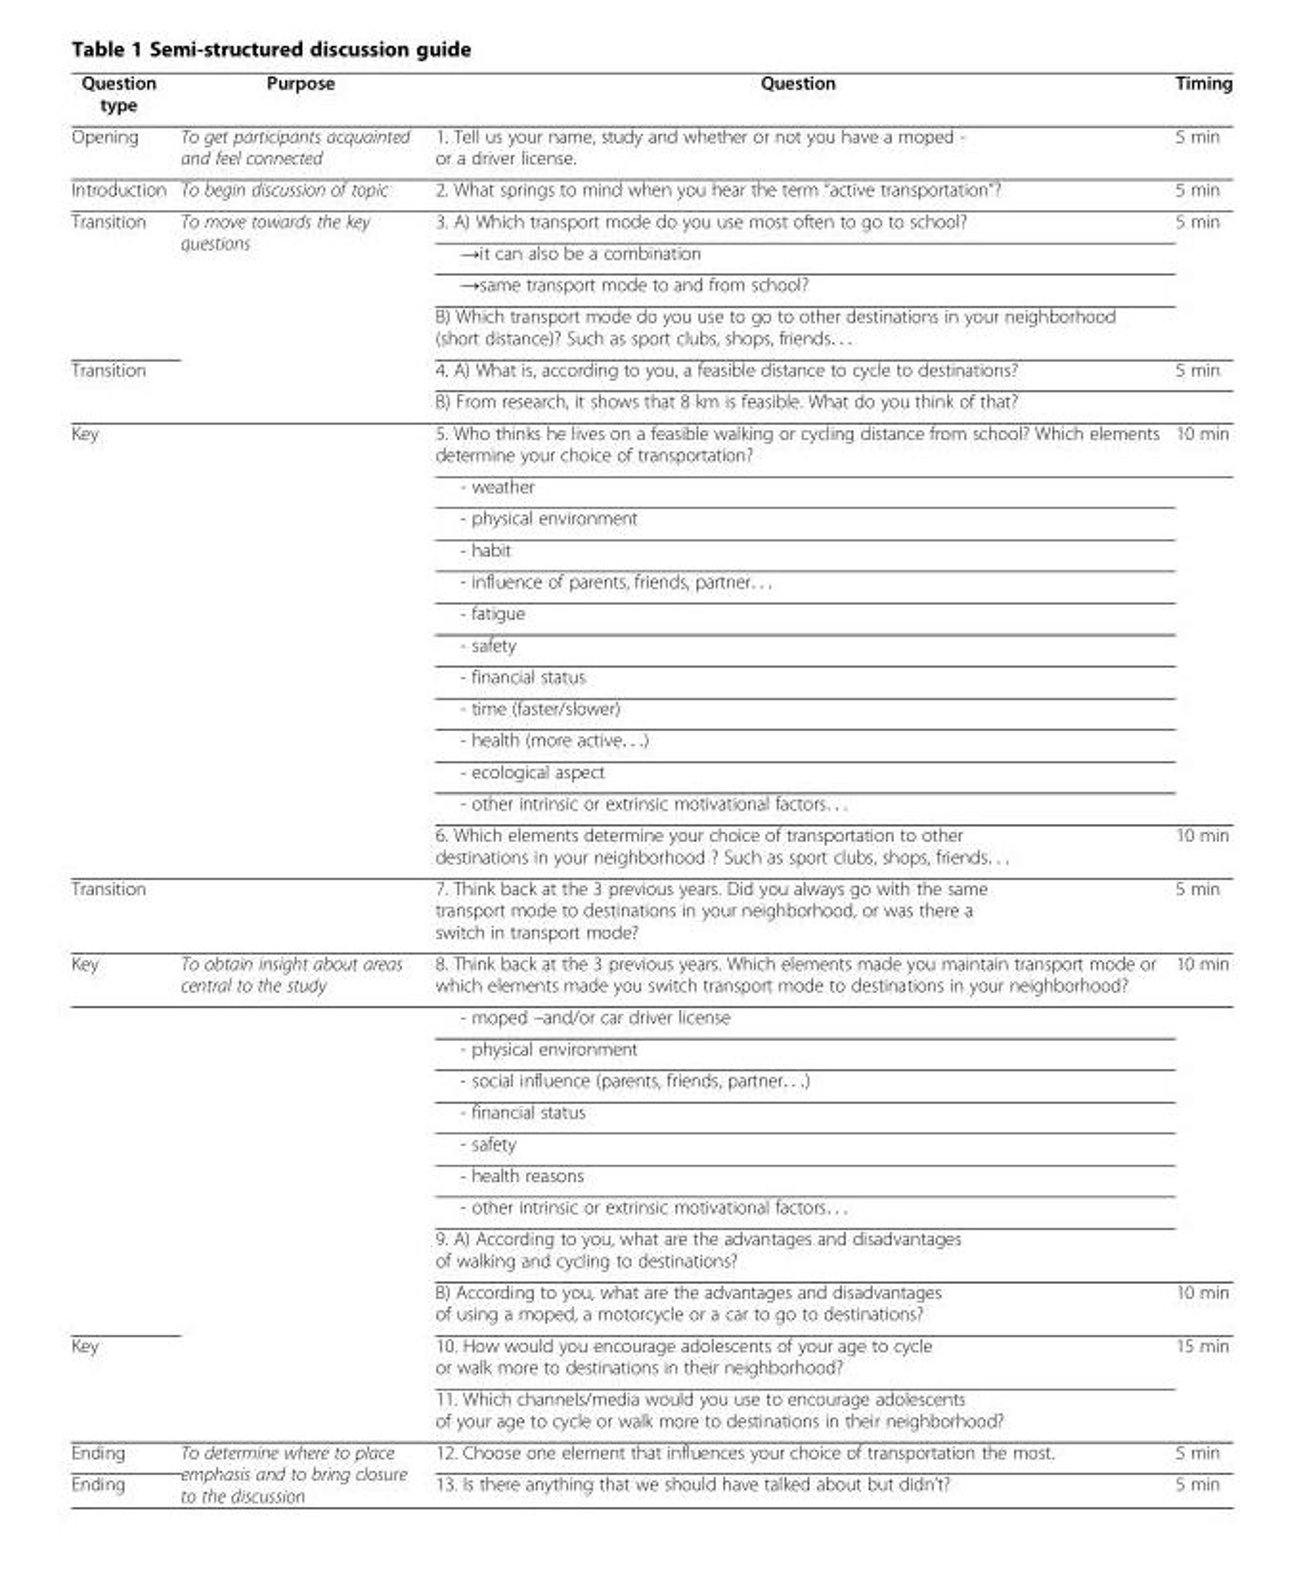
<table><thead><tr><td>Question type</td><td>Purpose</td><td>Question</td><td>Timing</td></tr></thead><tbody><tr><td>Opening</td><td>To get participants acquainted and feel connected</td><td>1. Tell us your name, study and whether or not you have a moped - or a driver license.</td><td>5 min</td></tr><tr><td>Introduction</td><td>To begin discussion of topic</td><td>2. What springs to mind when you hear the term “active transportation”?</td><td>5 min</td></tr><tr><td rowspan="4">Transition</td><td rowspan="6">To move towards the key questions</td><td>3. A) Which transport mode do you use most often to go to school?</td><td rowspan="4">5 min</td></tr><tr><td>→it can also be a combination</td></tr><tr><td>→same transport mode to and from school?</td></tr><tr><td>B) Which transport mode do you use to go to other destinations in your neighborhood (short distance)? Such as sport clubs, shops, friends. . .</td></tr><tr><td rowspan="2">Transition</td><td>4. A) What is, according to you, a feasible distance to cycle to destinations?</td><td>5 min</td></tr><tr><td>B) From research, it shows that 8 km is feasible. What do you think of that?</td><td></td></tr><tr><td rowspan="13">Key</td><td rowspan="13"></td><td>5. Who thinks he lives on a feasible walking or cycling distance from school? Which elements determine your choice of transportation?</td><td>10 min</td></tr><tr><td>- weather</td><td></td></tr><tr><td>- physical environment</td><td rowspan="10"></td></tr><tr><td>- habit</td></tr><tr><td>- influence of parents, friends, partner. . .</td></tr><tr><td>- fatigue</td></tr><tr><td>- safety</td></tr><tr><td>- financial status</td></tr><tr><td>- time (faster/slower)</td></tr><tr><td>- health (more active. . .)</td></tr><tr><td>- ecological aspect</td></tr><tr><td>- other intrinsic or extrinsic motivational factors. . .</td></tr><tr><td>6. Which elements determine your choice of transportation to other destinations in your neighborhood ? Such as sport clubs, shops, friends. . .</td><td>10 min</td></tr><tr><td>Transition</td><td></td><td>7. Think back at the 3 previous years. Did you always go with the same transport mode to destinations in your neighborhood, or was there a switch in transport mode?</td><td>5 min</td></tr><tr><td rowspan="10">Key</td><td>To obtain insight about areas central to the study</td><td>8. Think back at the 3 previous years. Which elements made you maintain transport mode or which elements made you switch transport mode to destinations in your neighborhood?</td><td>10 min</td></tr><tr><td rowspan="11"></td><td>- moped –and/or car driver license</td><td></td></tr><tr><td>- physical environment</td><td rowspan="7"></td></tr><tr><td>- social influence (parents, friends, partner. . .)</td></tr><tr><td>- financial status</td></tr><tr><td>- safety</td></tr><tr><td>- health reasons</td></tr><tr><td>- other intrinsic or extrinsic motivational factors. . .</td></tr><tr><td>9. A) According to you, what are the advantages and disadvantages of walking and cycling to destinations?</td></tr><tr><td>B) According to you, what are the advantages and disadvantages of using a moped, a motorcycle or a car to go to destinations?</td><td>10 min</td></tr><tr><td rowspan="2">Key</td><td>10. How would you encourage adolescents of your age to cycle or walk more to destinations in their neighborhood?</td><td>15 min</td></tr><tr><td>11. Which channels/media would you use to encourage adolescents of your age to cycle or walk more to destinations in their neighborhood?</td><td></td></tr><tr><td>Ending</td><td rowspan="2">To determine where to place emphasis and to bring closure to the discussion</td><td>12. Choose one element that influences your choice of transportation the most.</td><td>5 min</td></tr><tr><td>Ending</td><td>13. Is there anything that we should have talked about but didn’t?</td><td>5 min</td></tr></tbody></table>